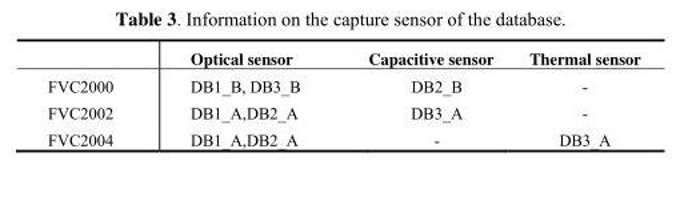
<table><thead><tr><td></td><td>Optical sensor</td><td>Capacitive sensor</td><td>Thermal sensor</td></tr></thead><tbody><tr><td>FVC2000</td><td>DB1_B, DB3_B</td><td>DB2_B</td><td>-</td></tr><tr><td>FVC2002</td><td>DB1_A,DB2_A</td><td>DB3_A</td><td>-</td></tr><tr><td>FVC2004</td><td>DB1_A,DB2_A</td><td>-</td><td>DB3_A</td></tr></tbody></table>